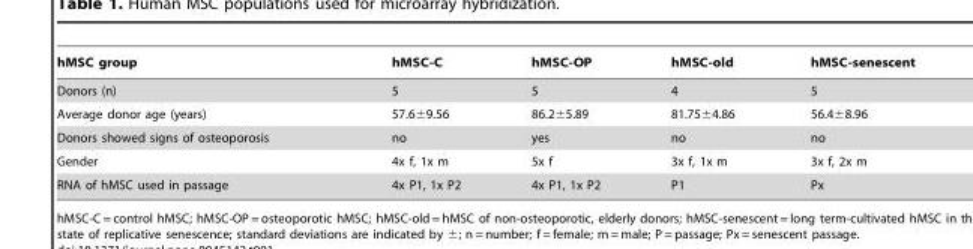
<table><thead><tr><td>hMSC group</td><td>hMSC-C</td><td>hMSC-OP</td><td>hMSC-old</td><td>hMSC-senescent</td></tr></thead><tbody><tr><td>Donors (n)</td><td>5</td><td>5</td><td>4</td><td>5</td></tr><tr><td>Average donor age (years)</td><td>57.6±9.56</td><td>86.2±5.89</td><td>81.75±4.86</td><td>56.4±8.96</td></tr><tr><td>Donors showed signs of osteoporosis</td><td>no</td><td>yes</td><td>no</td><td>no</td></tr><tr><td>Gender</td><td>4x f, 1x m</td><td>5x f</td><td>3x f, 1x m</td><td>3x f, 2x m</td></tr><tr><td>RNA of hMSC used in passage</td><td>4x P1, 1x P2</td><td>4x P1, 1x P2</td><td>P1</td><td>Px</td></tr></tbody></table>